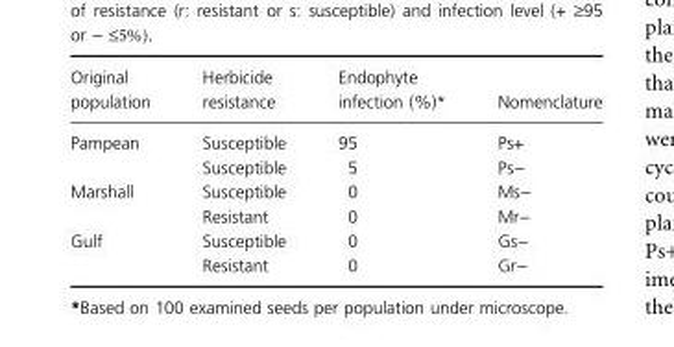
<table><thead><tr><td>Original population</td><td>Herbicide resistance</td><td>Endophyte infection (%)*</td><td>Nomenclature</td></tr></thead><tbody><tr><td rowspan="2">Pampean</td><td>Susceptible</td><td>95</td><td>Ps+</td></tr><tr><td>Susceptible</td><td>5</td><td>Ps−</td></tr><tr><td rowspan="2">Marshall</td><td>Susceptible</td><td>0</td><td>Ms−</td></tr><tr><td>Resistant</td><td>0</td><td>Mr−</td></tr><tr><td rowspan="2">Gulf</td><td>Susceptible</td><td>0</td><td>Gs−</td></tr><tr><td>Resistant</td><td>0</td><td>Gr−</td></tr></tbody></table>